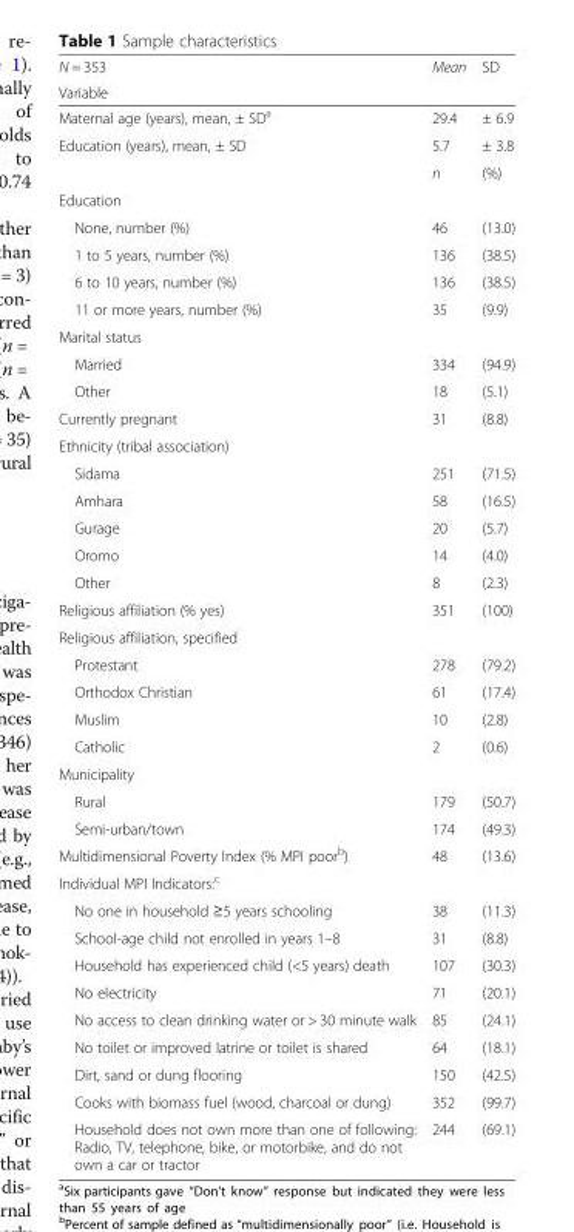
<table><thead><tr><td rowspan="2">N = 353 Variable</td><td rowspan="2">Mean</td><td rowspan="2">SD</td></tr><tr></tr></thead><tbody><tr><td>Maternal age (years), mean, ± SD<sup>a</sup></td><td>29.4</td><td>± 6.9</td></tr><tr><td rowspan="2">Education (years), mean, ± SD</td><td>5.7</td><td>± 3.8</td></tr><tr><td>n</td><td>(%)</td></tr><tr><td colspan="3">Education</td></tr><tr><td>None, number (%)</td><td>46</td><td>(13.0)</td></tr><tr><td>1 to 5 years, number (%)</td><td>136</td><td>(38.5)</td></tr><tr><td>6 to 10 years, number (%)</td><td>136</td><td>(38.5)</td></tr><tr><td>11 or more years, number (%)</td><td>35</td><td>(9.9)</td></tr><tr><td colspan="3">Marital status</td></tr><tr><td>Married</td><td>334</td><td>(94.9)</td></tr><tr><td>Other</td><td>18</td><td>(5.1)</td></tr><tr><td>Currently pregnant</td><td>31</td><td>(8.8)</td></tr><tr><td colspan="3">Ethnicity (tribal association)</td></tr><tr><td>Sidama</td><td>251</td><td>(71.5)</td></tr><tr><td>Amhara</td><td>58</td><td>(16.5)</td></tr><tr><td>Gurage</td><td>20</td><td>(5.7)</td></tr><tr><td>Oromo</td><td>14</td><td>(4.0)</td></tr><tr><td>Other</td><td>8</td><td>(2.3)</td></tr><tr><td>Religious affiliation (% yes)</td><td>351</td><td>(100)</td></tr><tr><td colspan="3">Religious affiliation, specified</td></tr><tr><td>Protestant</td><td>278</td><td>(79.2)</td></tr><tr><td>Orthodox Christian</td><td>61</td><td>(17.4)</td></tr><tr><td>Muslim</td><td>10</td><td>(2.8)</td></tr><tr><td>Catholic</td><td>2</td><td>(0.6)</td></tr><tr><td colspan="3">Municipality</td></tr><tr><td>Rural</td><td>179</td><td>(50.7)</td></tr><tr><td>Semi-urban/town</td><td>174</td><td>(49.3)</td></tr><tr><td>Multidimensional Poverty Index (% MPI poor<sup>b</sup>)</td><td>48</td><td>(13.6)</td></tr><tr><td colspan="3">Individual MPI Indicators:<sup>c</sup></td></tr><tr><td>No one in household ≥5 years schooling</td><td>38</td><td>(11.3)</td></tr><tr><td>School-age child not enrolled in years 1–8</td><td>31</td><td>(8.8)</td></tr><tr><td>Household has experienced child (&lt;5 years) death</td><td>107</td><td>(30.3)</td></tr><tr><td>No electricity</td><td>71</td><td>(20.1)</td></tr><tr><td>No access to clean drinking water or &gt; 30 minute walk</td><td>85</td><td>(24.1)</td></tr><tr><td>No toilet or improved latrine or toilet is shared</td><td>64</td><td>(18.1)</td></tr><tr><td>Dirt, sand or dung flooring</td><td>150</td><td>(42.5)</td></tr><tr><td>Cooks with biomass fuel (wood, charcoal or dung)</td><td>352</td><td>(99.7)</td></tr><tr><td>Household does not own more than one of following: Radio, TV, telephone, bike, or motorbike, and do not own a car or tractor</td><td>244</td><td>(69.1)</td></tr></tbody></table>